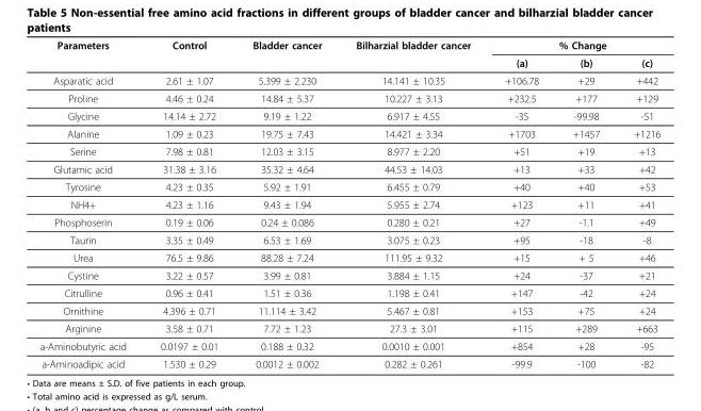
<table><thead><tr><td rowspan="2">Parameters</td><td rowspan="2">Control</td><td rowspan="2">Bladder cancer</td><td rowspan="2">Bilharzial bladder cancer</td><td colspan="3">% Change</td></tr><tr><td>(a)</td><td>(b)</td><td>(c)</td></tr></thead><tbody><tr><td>Asparatic acid</td><td>2.61 ± 1.07</td><td>5.399 ± 2.230</td><td>14.141 ± 10.35</td><td>+106.78</td><td>+29</td><td>+442</td></tr><tr><td>Proline</td><td>4.46 ± 0.24</td><td>14.84 ± 5.37</td><td>10.227 ± 3.13</td><td>+232.5</td><td>+177</td><td>+129</td></tr><tr><td>Glycine</td><td>14.14 ± 2.72</td><td>9.19 ± 1.22</td><td>6.917 ± 4.55</td><td>-35</td><td>-99.98</td><td>-51</td></tr><tr><td>Alanine</td><td>1.09 ± 0.23</td><td>19.75 ± 7.43</td><td>14.421 ± 3.34</td><td>+1703</td><td>+1457</td><td>+1216</td></tr><tr><td>Serine</td><td>7.98 ± 0.81</td><td>12.03 ± 3.15</td><td>8.977 ± 2.20</td><td>+51</td><td>+19</td><td>+13</td></tr><tr><td>Glutamic acid</td><td>31.38 ± 3.16</td><td>35.32 ± 4.64</td><td>44.53 ± 14.03</td><td>+13</td><td>+33</td><td>+42</td></tr><tr><td>Tyrosine</td><td>4.23 ± 0.35</td><td>5.92 ± 1.91</td><td>6.455 ± 0.79</td><td>+40</td><td>+40</td><td>+53</td></tr><tr><td>NH4+</td><td>4.23 ± 1.16</td><td>9.43 ± 1.94</td><td>5.955 ± 2.74</td><td>+123</td><td>+11</td><td>+41</td></tr><tr><td>Phosphoserin</td><td>0.19 ± 0.06</td><td>0.24 ± 0.086</td><td>0.280 ± 0.21</td><td>+27</td><td>-1.1</td><td>+49</td></tr><tr><td>Taurin</td><td>3.35 ± 0.49</td><td>6.53 ± 1.69</td><td>3.075 ± 0.23</td><td>+95</td><td>-18</td><td>-8</td></tr><tr><td>Urea</td><td>76.5 ± 9.86</td><td>88.28 ± 7.24</td><td>111.95 ± 9.32</td><td>+15</td><td>+ 5</td><td>+46</td></tr><tr><td>Cystine</td><td>3.22 ± 0.57</td><td>3.99 ± 0.81</td><td>3.884 ± 1.15</td><td>+24</td><td>-37</td><td>+21</td></tr><tr><td>Citrulline</td><td>0.96 ± 0.41</td><td>1.51 ± 0.36</td><td>1.198 ± 0.41</td><td>+147</td><td>-42</td><td>+24</td></tr><tr><td>Ornithine</td><td>4.396 ± 0.71</td><td>11.114 ± 3.42</td><td>5.467 ± 0.81</td><td>+153</td><td>+75</td><td>+24</td></tr><tr><td>Arginine</td><td>3.58 ± 0.71</td><td>7.72 ± 1.23</td><td>27.3 ± 3.01</td><td>+115</td><td>+289</td><td>+663</td></tr><tr><td>a-Aminobutyric acid</td><td>0.0197 ± 0.01</td><td>0.188 ± 0.32</td><td>0.0010 ± 0.001</td><td>+854</td><td>+28</td><td>-95</td></tr><tr><td>a-Aminoadipic acid</td><td>1.530 ± 0.29</td><td>0.0012 ± 0.002</td><td>0.282 ± 0.261</td><td>-99.9</td><td>-100</td><td>-82</td></tr></tbody></table>